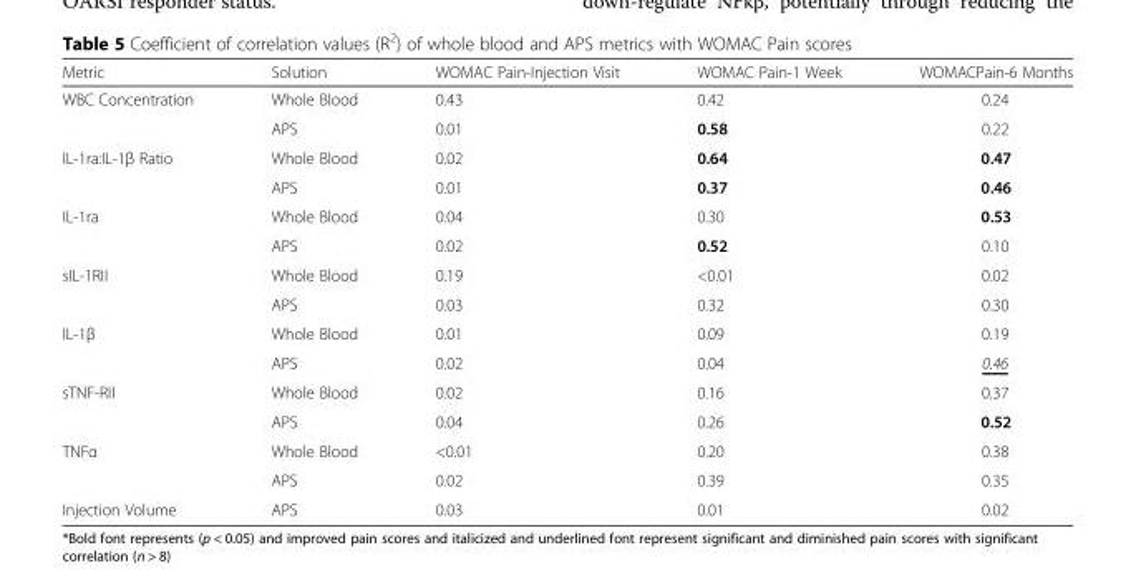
<table><thead><tr><td>Metric</td><td>Solution</td><td>WOMAC Pain-Injection Visit</td><td>WOMAC Pain-1 Week</td><td>WOMACPain-6 Months</td></tr></thead><tbody><tr><td rowspan="2">WBC Concentration</td><td>Whole Blood</td><td>0.43</td><td>0.42</td><td>0.24</td></tr><tr><td>APS</td><td>0.01</td><td>0.58</td><td>0.22</td></tr><tr><td rowspan="2">IL-1ra:IL-1β Ratio</td><td>Whole Blood</td><td>0.02</td><td>0.64</td><td>0.47</td></tr><tr><td>APS</td><td>0.01</td><td>0.37</td><td>0.46</td></tr><tr><td rowspan="2">IL-1ra</td><td>Whole Blood</td><td>0.04</td><td>0.30</td><td>0.53</td></tr><tr><td>APS</td><td>0.02</td><td>0.52</td><td>0.10</td></tr><tr><td rowspan="2">sIL-1RII</td><td>Whole Blood</td><td>0.19</td><td>&lt;0.01</td><td>0.02</td></tr><tr><td>APS</td><td>0.03</td><td>0.32</td><td>0.30</td></tr><tr><td rowspan="2">IL-1β</td><td>Whole Blood</td><td>0.01</td><td>0.09</td><td>0.19</td></tr><tr><td>APS</td><td>0.02</td><td>0.04</td><td>0.46</td></tr><tr><td rowspan="2">sTNF-RII</td><td>Whole Blood</td><td>0.02</td><td>0.16</td><td>0.37</td></tr><tr><td>APS</td><td>0.04</td><td>0.26</td><td>0.52</td></tr><tr><td rowspan="2">TNFα</td><td>Whole Blood</td><td>&lt;0.01</td><td>0.20</td><td>0.38</td></tr><tr><td>APS</td><td>0.02</td><td>0.39</td><td>0.35</td></tr><tr><td>Injection Volume</td><td>APS</td><td>0.03</td><td>0.01</td><td>0.02</td></tr></tbody></table>